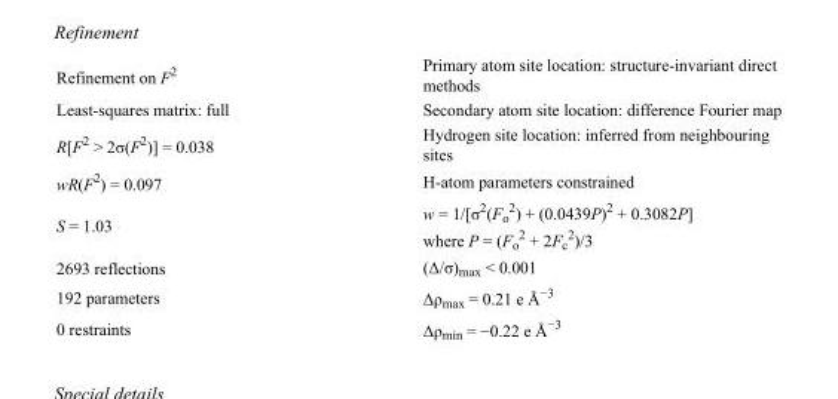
<table><tbody><tr><td>Refinement on F<sup>2</sup></td><td>Primary atom site location: structure-invariant direct methods</td></tr><tr><td>Least-squares matrix: full</td><td>Secondary atom site location: difference Fourier map</td></tr><tr><td>R[F<sup>2</sup> &gt; 2σ(F<sup>2</sup>)] = 0.038</td><td>Hydrogen site location: inferred from neighbouring sites</td></tr><tr><td>wR(F<sup>2</sup>) = 0.097</td><td>H-atom parameters constrained</td></tr><tr><td>S = 1.03</td><td>w = 1/[σ<sup>2</sup>(F<sub>o</sub> <sup>2</sup>) + (0.0439P)<sup>2</sup> + 0.3082P] where P = (F<sub>o</sub> <sup>2</sup> + 2F<sub>c</sub> <sup>2</sup>)/3</td></tr><tr><td>2693 reflections</td><td>(Δ/σ)<sub>max</sub> &lt; 0.001</td></tr><tr><td>192 parameters</td><td>Δρ<sub>max</sub> = 0.21 e Å<sup>−3</sup></td></tr><tr><td>0 restraints</td><td>Δρ<sub>min</sub> = −0.22 e Å<sup>−3</sup></td></tr></tbody></table>